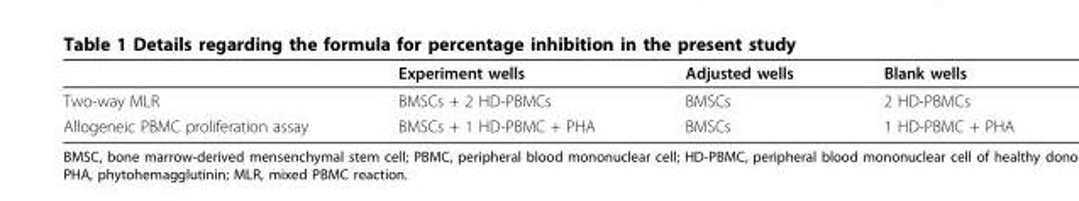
<table><thead><tr><td></td><td>Experiment wells</td><td>Adjusted wells</td><td>Blank wells</td></tr></thead><tbody><tr><td>Two-way MLR</td><td>BMSCs + 2 HD-PBMCs</td><td>BMSCs</td><td>2 HD-PBMCs</td></tr><tr><td>Allogeneic PBMC proliferation assay</td><td>BMSCs + 1 HD-PBMC + PHA</td><td>BMSCs</td><td>1 HD-PBMC + PHA</td></tr></tbody></table>